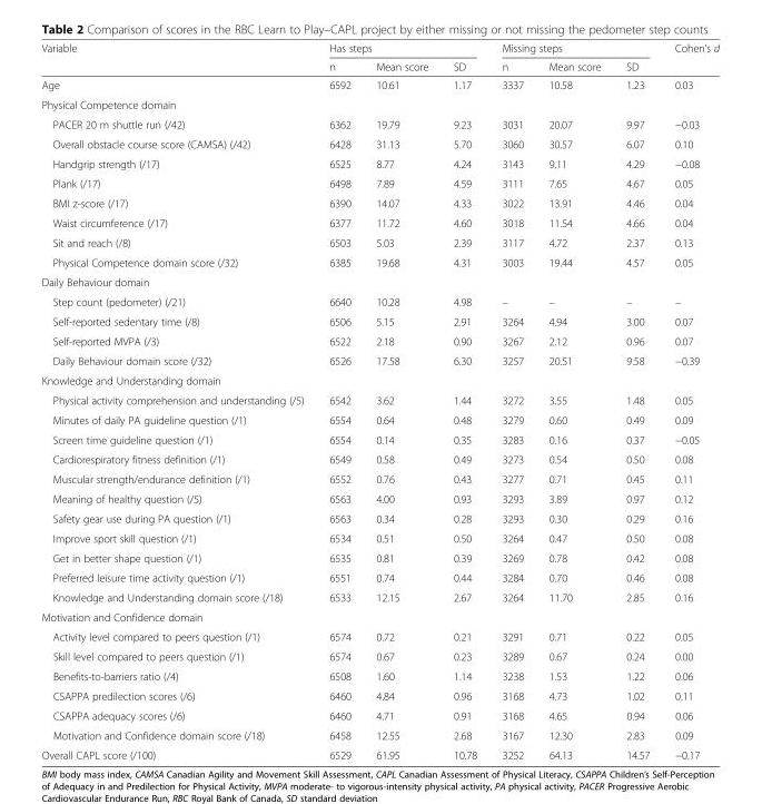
<table><thead><tr><td rowspan="2">Variable</td><td colspan="3">Has steps</td><td colspan="3">Missing steps</td><td rowspan="2">Cohen’s d</td></tr><tr><td>n</td><td>Mean score</td><td>SD</td><td>n</td><td>Mean score</td><td>SD</td></tr></thead><tbody><tr><td>Age</td><td>6592</td><td>10.61</td><td>1.17</td><td>3337</td><td>10.58</td><td>1.23</td><td>0.03</td></tr><tr><td colspan="8">Physical Competence domain</td></tr><tr><td>PACER 20 m shuttle run (/42)</td><td>6362</td><td>19.79</td><td>9.23</td><td>3031</td><td>20.07</td><td>9.97</td><td>−0.03</td></tr><tr><td>Overall obstacle course score (CAMSA) (/42)</td><td>6428</td><td>31.13</td><td>5.70</td><td>3060</td><td>30.57</td><td>6.07</td><td>0.10</td></tr><tr><td>Handgrip strength (/17)</td><td>6525</td><td>8.77</td><td>4.24</td><td>3143</td><td>9.11</td><td>4.29</td><td>−0.08</td></tr><tr><td>Plank (/17)</td><td>6498</td><td>7.89</td><td>4.59</td><td>3111</td><td>7.65</td><td>4.67</td><td>0.05</td></tr><tr><td>BMI z-score (/17)</td><td>6390</td><td>14.07</td><td>4.33</td><td>3022</td><td>13.91</td><td>4.46</td><td>0.04</td></tr><tr><td>Waist circumference (/17)</td><td>6377</td><td>11.72</td><td>4.60</td><td>3018</td><td>11.54</td><td>4.66</td><td>0.04</td></tr><tr><td>Sit and reach (/8)</td><td>6503</td><td>5.03</td><td>2.39</td><td>3117</td><td>4.72</td><td>2.37</td><td>0.13</td></tr><tr><td>Physical Competence domain score (/32)</td><td>6385</td><td>19.68</td><td>4.31</td><td>3003</td><td>19.44</td><td>4.57</td><td>0.05</td></tr><tr><td colspan="8">Daily Behaviour domain</td></tr><tr><td>Step count (pedometer) (/21)</td><td>6640</td><td>10.28</td><td>4.98</td><td>–</td><td>–</td><td>–</td><td>–</td></tr><tr><td>Self-reported sedentary time (/8)</td><td>6506</td><td>5.15</td><td>2.91</td><td>3264</td><td>4.94</td><td>3.00</td><td>0.07</td></tr><tr><td>Self-reported MVPA (/3)</td><td>6522</td><td>2.18</td><td>0.90</td><td>3267</td><td>2.12</td><td>0.96</td><td>0.07</td></tr><tr><td>Daily Behaviour domain score (/32)</td><td>6526</td><td>17.58</td><td>6.30</td><td>3257</td><td>20.51</td><td>9.58</td><td>−0.39</td></tr><tr><td colspan="8">Knowledge and Understanding domain</td></tr><tr><td>Physical activity comprehension and understanding (/5)</td><td>6542</td><td>3.62</td><td>1.44</td><td>3272</td><td>3.55</td><td>1.48</td><td>0.05</td></tr><tr><td>Minutes of daily PA guideline question (/1)</td><td>6554</td><td>0.64</td><td>0.48</td><td>3279</td><td>0.60</td><td>0.49</td><td>0.09</td></tr><tr><td>Screen time guideline question (/1)</td><td>6554</td><td>0.14</td><td>0.35</td><td>3283</td><td>0.16</td><td>0.37</td><td>−0.05</td></tr><tr><td>Cardiorespiratory fitness definition (/1)</td><td>6549</td><td>0.58</td><td>0.49</td><td>3273</td><td>0.54</td><td>0.50</td><td>0.08</td></tr><tr><td>Muscular strength/endurance definition (/1)</td><td>6552</td><td>0.76</td><td>0.43</td><td>3277</td><td>0.71</td><td>0.45</td><td>0.11</td></tr><tr><td>Meaning of healthy question (/5)</td><td>6563</td><td>4.00</td><td>0.93</td><td>3293</td><td>3.89</td><td>0.97</td><td>0.12</td></tr><tr><td>Safety gear use during PA question (/1)</td><td>6563</td><td>0.34</td><td>0.28</td><td>3293</td><td>0.30</td><td>0.29</td><td>0.16</td></tr><tr><td>Improve sport skill question (/1)</td><td>6534</td><td>0.51</td><td>0.50</td><td>3264</td><td>0.47</td><td>0.50</td><td>0.08</td></tr><tr><td>Get in better shape question (/1)</td><td>6535</td><td>0.81</td><td>0.39</td><td>3269</td><td>0.78</td><td>0.42</td><td>0.08</td></tr><tr><td>Preferred leisure time activity question (/1)</td><td>6551</td><td>0.74</td><td>0.44</td><td>3284</td><td>0.70</td><td>0.46</td><td>0.08</td></tr><tr><td>Knowledge and Understanding domain score (/18)</td><td>6533</td><td>12.15</td><td>2.67</td><td>3264</td><td>11.70</td><td>2.85</td><td>0.16</td></tr><tr><td colspan="8">Motivation and Confidence domain</td></tr><tr><td>Activity level compared to peers question (/1)</td><td>6574</td><td>0.72</td><td>0.21</td><td>3291</td><td>0.71</td><td>0.22</td><td>0.05</td></tr><tr><td>Skill level compared to peers question (/1)</td><td>6574</td><td>0.67</td><td>0.23</td><td>3289</td><td>0.67</td><td>0.24</td><td>0.00</td></tr><tr><td>Benefits-to-barriers ratio (/4)</td><td>6508</td><td>1.60</td><td>1.14</td><td>3238</td><td>1.53</td><td>1.22</td><td>0.06</td></tr><tr><td>CSAPPA predilection scores (/6)</td><td>6460</td><td>4.84</td><td>0.96</td><td>3168</td><td>4.73</td><td>1.02</td><td>0.11</td></tr><tr><td>CSAPPA adequacy scores (/6)</td><td>6460</td><td>4.71</td><td>0.91</td><td>3168</td><td>4.65</td><td>0.94</td><td>0.06</td></tr><tr><td>Motivation and Confidence domain score (/18)</td><td>6458</td><td>12.55</td><td>2.68</td><td>3167</td><td>12.30</td><td>2.83</td><td>0.09</td></tr><tr><td>Overall CAPL score (/100)</td><td>6529</td><td>61.95</td><td>10.78</td><td>3252</td><td>64.13</td><td>14.57</td><td>−0.17</td></tr></tbody></table>